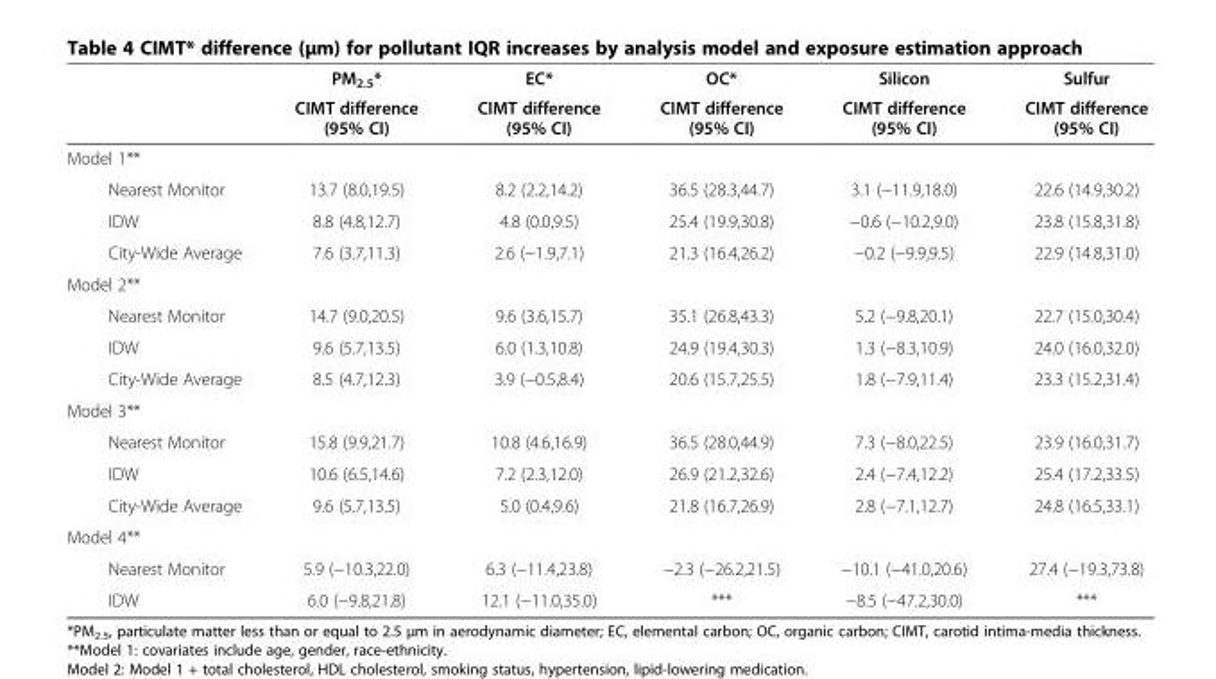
<table><thead><tr><td rowspan="2"></td><td rowspan="2">PM<sub>2.5</sub>* CIMT difference (95% CI)</td><td rowspan="2">EC* CIMT difference (95% CI)</td><td rowspan="2">OC* CIMT difference (95% CI)</td><td rowspan="2">Silicon CIMT difference (95% CI)</td><td rowspan="2">Sulfur CIMT difference (95% CI)</td></tr><tr></tr></thead><tbody><tr><td colspan="6">Model 1**</td></tr><tr><td>Nearest Monitor</td><td>13.7 (8.0,19.5)</td><td>8.2 (2.2,14.2)</td><td>36.5 (28.3,44.7)</td><td>3.1 (−11.9,18.0)</td><td>22.6 (14.9,30.2)</td></tr><tr><td>IDW</td><td>8.8 (4.8,12.7)</td><td>4.8 (0.0,9.5)</td><td>25.4 (19.9,30.8)</td><td>−0.6 (−10.2,9.0)</td><td>23.8 (15.8,31.8)</td></tr><tr><td>City-Wide Average</td><td>7.6 (3.7,11.3)</td><td>2.6 (−1.9,7.1)</td><td>21.3 (16.4,26.2)</td><td>−0.2 (−9.9,9.5)</td><td>22.9 (14.8,31.0)</td></tr><tr><td colspan="6">Model 2**</td></tr><tr><td>Nearest Monitor</td><td>14.7 (9.0,20.5)</td><td>9.6 (3.6,15.7)</td><td>35.1 (26.8,43.3)</td><td>5.2 (−9.8,20.1)</td><td>22.7 (15.0,30.4)</td></tr><tr><td>IDW</td><td>9.6 (5.7,13.5)</td><td>6.0 (1.3,10.8)</td><td>24.9 (19.4,30.3)</td><td>1.3 (−8.3,10.9)</td><td>24.0 (16.0,32.0)</td></tr><tr><td>City-Wide Average</td><td>8.5 (4.7,12.3)</td><td>3.9 (−0.5,8.4)</td><td>20.6 (15.7,25.5)</td><td>1.8 (−7.9,11.4)</td><td>23.3 (15.2,31.4)</td></tr><tr><td colspan="6">Model 3**</td></tr><tr><td>Nearest Monitor</td><td>15.8 (9.9,21.7)</td><td>10.8 (4.6,16.9)</td><td>36.5 (28.0,44.9)</td><td>7.3 (−8.0,22.5)</td><td>23.9 (16.0,31.7)</td></tr><tr><td>IDW</td><td>10.6 (6.5,14.6)</td><td>7.2 (2.3,12.0)</td><td>26.9 (21.2,32.6)</td><td>2.4 (−7.4,12.2)</td><td>25.4 (17.2,33.5)</td></tr><tr><td>City-Wide Average</td><td>9.6 (5.7,13.5)</td><td>5.0 (0.4,9.6)</td><td>21.8 (16.7,26.9)</td><td>2.8 (−7.1,12.7)</td><td>24.8 (16.5,33.1)</td></tr><tr><td colspan="6">Model 4**</td></tr><tr><td>Nearest Monitor</td><td>5.9 (−10.3,22.0)</td><td>6.3 (−11.4,23.8)</td><td>−2.3 (−26.2,21.5)</td><td>−10.1 (−41.0,20.6)</td><td>27.4 (−19.3,73.8)</td></tr><tr><td>IDW</td><td>6.0 (−9.8,21.8)</td><td>12.1 (−11.0,35.0)</td><td>***</td><td>−8.5 (−47.2,30.0)</td><td>***</td></tr></tbody></table>